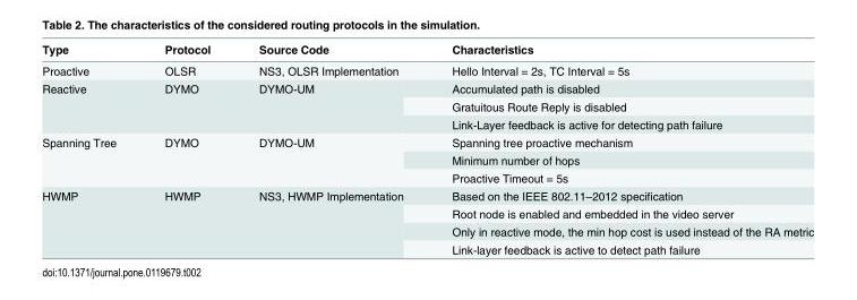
<table><thead><tr><td>Type</td><td>Protocol</td><td>Source Code</td><td>Characteristics</td></tr></thead><tbody><tr><td>Proactive</td><td>OLSR</td><td>NS3, OLSR Implementation</td><td>Hello Interval = 2s, TC Interval = 5s</td></tr><tr><td rowspan="3">Reactive</td><td rowspan="3">DYMO</td><td rowspan="3">DYMO-UM</td><td>Accumulated path is disabled</td></tr><tr><td>Gratuitous Route Reply is disabled</td></tr><tr><td>Link-Layer feedback is active for detecting path failure</td></tr><tr><td rowspan="3">Spanning Tree</td><td rowspan="3">DYMO</td><td rowspan="3">DYMO-UM</td><td>Spanning tree proactive mechanism</td></tr><tr><td>Minimum number of hops</td></tr><tr><td>Proactive Timeout = 5s</td></tr><tr><td rowspan="4">HWMP</td><td rowspan="4">HWMP</td><td rowspan="4">NS3, HWMP Implementation</td><td>Based on the IEEE 802.11–2012 specification</td></tr><tr><td>Root node is enabled and embedded in the video server</td></tr><tr><td>Only in reactive mode, the min hop cost is used instead of the RA metric</td></tr><tr><td>Link-layer feedback is active to detect path failure</td></tr></tbody></table>